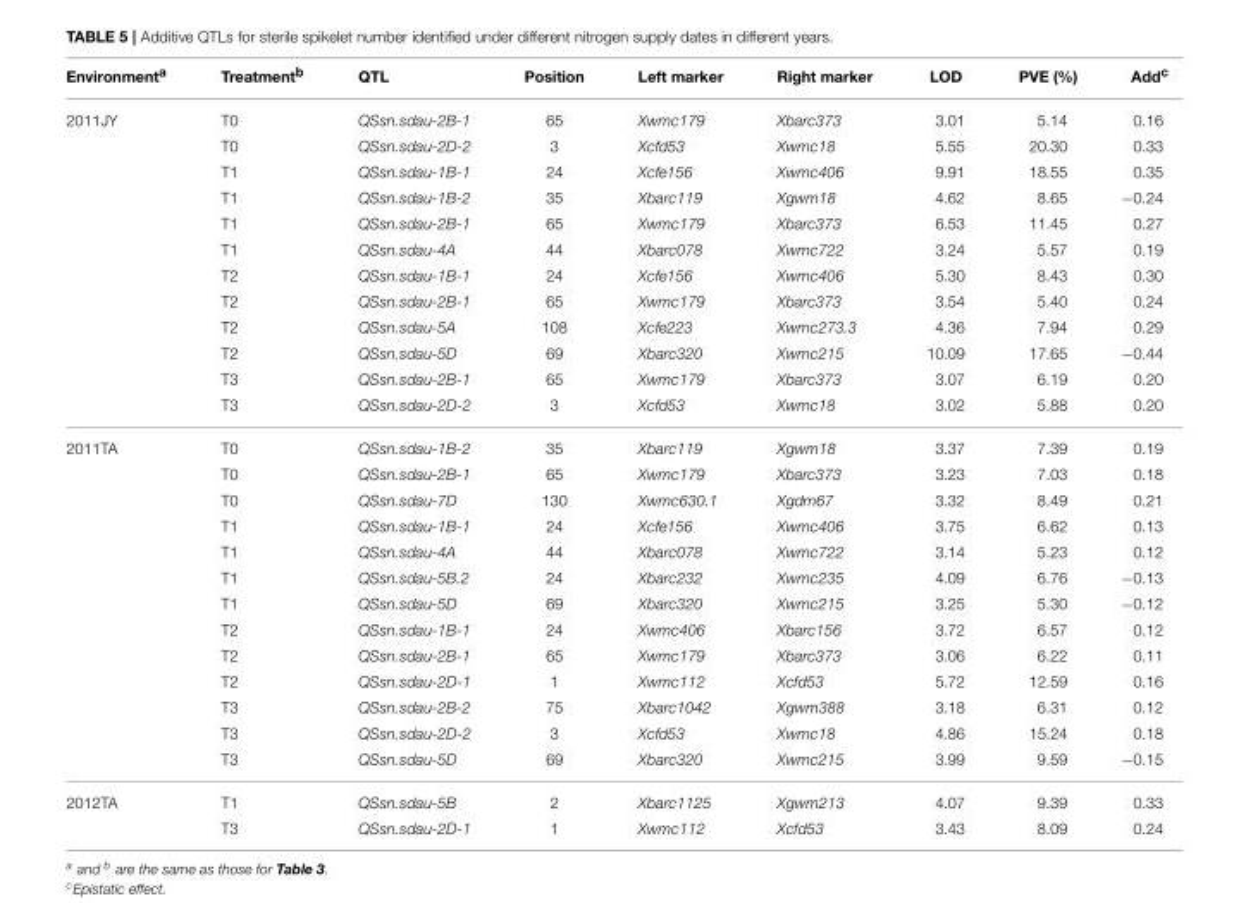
<table><thead><tr><td>Environment<sup>a</sup></td><td>Treatment<sup>b</sup></td><td>QTL</td><td>Position</td><td>Left marker</td><td>Right marker</td><td>LOD</td><td>PVE (%)</td><td>Add<sup>c</sup></td></tr></thead><tbody><tr><td rowspan="12">2011JY</td><td>T0</td><td>QSsn.sdau-2B-1</td><td>65</td><td>Xwmc179</td><td>Xbarc373</td><td>3.01</td><td>5.14</td><td>0.16</td></tr><tr><td>T0</td><td>QSsn.sdau-2D-2</td><td>3</td><td>Xcfd53</td><td>Xwmc18</td><td>5.55</td><td>20.30</td><td>0.33</td></tr><tr><td>T1</td><td>QSsn.sdau-1B-1</td><td>24</td><td>Xcfe156</td><td>Xwmc406</td><td>9.91</td><td>18.55</td><td>0.35</td></tr><tr><td>T1</td><td>QSsn.sdau-1B-2</td><td>35</td><td>Xbarc119</td><td>Xgwm18</td><td>4.62</td><td>8.65</td><td>−0.24</td></tr><tr><td>T1</td><td>QSsn.sdau-2B-1</td><td>65</td><td>Xwmc179</td><td>Xbarc373</td><td>6.53</td><td>11.45</td><td>0.27</td></tr><tr><td>T1</td><td>QSsn.sdau-4A</td><td>44</td><td>Xbarc078</td><td>Xwmc722</td><td>3.24</td><td>5.57</td><td>0.19</td></tr><tr><td>T2</td><td>QSsn.sdau-1B-1</td><td>24</td><td>Xcfe156</td><td>Xwmc406</td><td>5.30</td><td>8.43</td><td>0.30</td></tr><tr><td>T2</td><td>QSsn.sdau-2B-1</td><td>65</td><td>Xwmc179</td><td>Xbarc373</td><td>3.54</td><td>5.40</td><td>0.24</td></tr><tr><td>T2</td><td>QSsn.sdau-5A</td><td>108</td><td>Xcfe223</td><td>Xwmc273.3</td><td>4.36</td><td>7.94</td><td>0.29</td></tr><tr><td>T2</td><td>QSsn.sdau-5D</td><td>69</td><td>Xbarc320</td><td>Xwmc215</td><td>10.09</td><td>17.65</td><td>−0.44</td></tr><tr><td>T3</td><td>QSsn.sdau-2B-1</td><td>65</td><td>Xwmc179</td><td>Xbarc373</td><td>3.07</td><td>6.19</td><td>0.20</td></tr><tr><td>T3</td><td>QSsn.sdau-2D-2</td><td>3</td><td>Xcfd53</td><td>Xwmc18</td><td>3.02</td><td>5.88</td><td>0.20</td></tr><tr><td rowspan="13">2011TA</td><td>T0</td><td>QSsn.sdau-1B-2</td><td>35</td><td>Xbarc119</td><td>Xgwm18</td><td>3.37</td><td>7.39</td><td>0.19</td></tr><tr><td>T0</td><td>QSsn.sdau-2B-1</td><td>65</td><td>Xwmc179</td><td>Xbarc373</td><td>3.23</td><td>7.03</td><td>0.18</td></tr><tr><td>T0</td><td>QSsn.sdau-7D</td><td>130</td><td>Xwmc630.1</td><td>Xgdm67</td><td>3.32</td><td>8.49</td><td>0.21</td></tr><tr><td>T1</td><td>QSsn.sdau-1B-1</td><td>24</td><td>Xcfe156</td><td>Xwmc406</td><td>3.75</td><td>6.62</td><td>0.13</td></tr><tr><td>T1</td><td>QSsn.sdau-4A</td><td>44</td><td>Xbarc078</td><td>Xwmc722</td><td>3.14</td><td>5.23</td><td>0.12</td></tr><tr><td>T1</td><td>QSsn.sdau-5B.2</td><td>24</td><td>Xbarc232</td><td>Xwmc235</td><td>4.09</td><td>6.76</td><td>−0.13</td></tr><tr><td>T1</td><td>QSsn.sdau-5D</td><td>69</td><td>Xbarc320</td><td>Xwmc215</td><td>3.25</td><td>5.30</td><td>−0.12</td></tr><tr><td>T2</td><td>QSsn.sdau-1B-1</td><td>24</td><td>Xwmc406</td><td>Xbarc156</td><td>3.72</td><td>6.57</td><td>0.12</td></tr><tr><td>T2</td><td>QSsn.sdau-2B-1</td><td>65</td><td>Xwmc179</td><td>Xbarc373</td><td>3.06</td><td>6.22</td><td>0.11</td></tr><tr><td>T2</td><td>QSsn.sdau-2D-1</td><td>1</td><td>Xwmc112</td><td>Xcfd53</td><td>5.72</td><td>12.59</td><td>0.16</td></tr><tr><td>T3</td><td>QSsn.sdau-2B-2</td><td>75</td><td>Xbarc1042</td><td>Xgwm388</td><td>3.18</td><td>6.31</td><td>0.12</td></tr><tr><td>T3</td><td>QSsn.sdau-2D-2</td><td>3</td><td>Xcfd53</td><td>Xwmc18</td><td>4.86</td><td>15.24</td><td>0.18</td></tr><tr><td>T3</td><td>QSsn.sdau-5D</td><td>69</td><td>Xbarc320</td><td>Xwmc215</td><td>3.99</td><td>9.59</td><td>−0.15</td></tr><tr><td rowspan="2">2012TA</td><td>T1</td><td>QSsn.sdau-5B</td><td>2</td><td>Xbarc1125</td><td>Xgwm213</td><td>4.07</td><td>9.39</td><td>0.33</td></tr><tr><td>T3</td><td>QSsn.sdau-2D-1</td><td>1</td><td>Xwmc112</td><td>Xcfd53</td><td>3.43</td><td>8.09</td><td>0.24</td></tr></tbody></table>